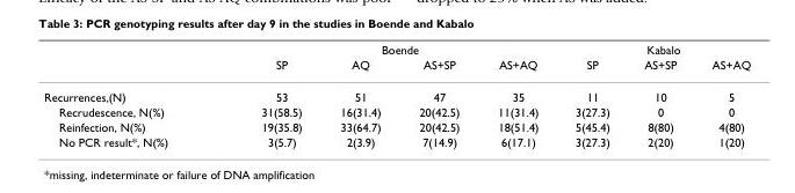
<table><thead><tr><td rowspan="2"></td><td colspan="4">Boende</td><td colspan="3">Kabalo</td></tr><tr><td>SP</td><td>AQ</td><td>AS+SP</td><td>AS+AQ</td><td>SP</td><td>AS+SP</td><td>AS+AQ</td></tr></thead><tbody><tr><td>Recurrences,(N)</td><td>53</td><td>51</td><td>47</td><td>35</td><td>11</td><td>10</td><td>5</td></tr><tr><td>Recrudescence, N(%)</td><td>31(58.5)</td><td>16(31.4)</td><td>20(42.5)</td><td>11(31.4)</td><td>3(27.3)</td><td>0</td><td>0</td></tr><tr><td>Reinfection, N(%)</td><td>19(35.8)</td><td>33(64.7)</td><td>20(42.5)</td><td>18(51.4)</td><td>5(45.4)</td><td>8(80)</td><td>4(80)</td></tr><tr><td>No PCR result*, N(%)</td><td>3(5.7)</td><td>2(3.9)</td><td>7(14.9)</td><td>6(17.1)</td><td>3(27.3)</td><td>2(20)</td><td>1(20)</td></tr></tbody></table>